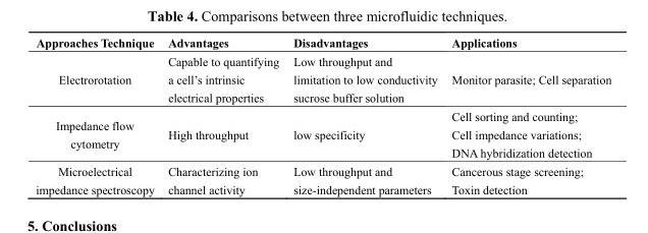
<table><thead><tr><td>Approaches Technique</td><td>Advantages</td><td>Disadvantages</td><td>Applications</td></tr></thead><tbody><tr><td>Electrorotation</td><td>Capable to quantifying a cell’s intrinsic electrical properties</td><td>Low throughput and limitation to low conductivity sucrose buffer solution</td><td>Monitor parasite; Cell separation</td></tr><tr><td>Impedance flow cytometry</td><td>High throughput</td><td>low specificity</td><td>Cell sorting and counting; Cell impedance variations; DNA hybridization detection</td></tr><tr><td>Microelectrical impedance spectroscopy</td><td>Characterizing ion channel activity</td><td>Low throughput and size-independent parameters</td><td>Cancerous stage screening; Toxin detection</td></tr></tbody></table>